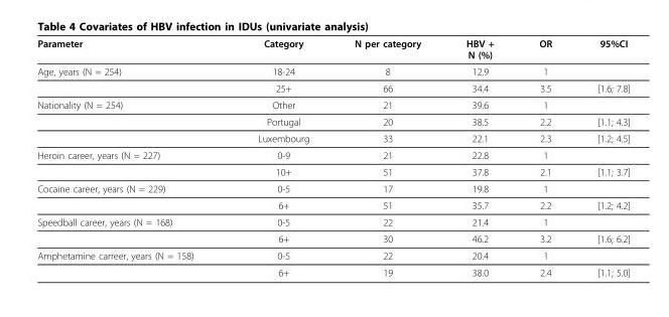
<table><thead><tr><td>Parameter</td><td>Category</td><td>N per category</td><td>HBV + N (%)</td><td>OR</td><td>95%CI</td></tr></thead><tbody><tr><td rowspan="2">Age, years (N = 254)</td><td>18-24</td><td>8</td><td>12.9</td><td>1</td><td></td></tr><tr><td>25+</td><td>66</td><td>34.4</td><td>3.5</td><td>[1.6; 7.8]</td></tr><tr><td rowspan="3">Nationality (N = 254)</td><td>Other</td><td>21</td><td>39.6</td><td>1</td><td></td></tr><tr><td>Portugal</td><td>20</td><td>38.5</td><td>2.2</td><td>[1.1; 4.3]</td></tr><tr><td>Luxembourg</td><td>33</td><td>22.1</td><td>2.3</td><td>[1.2; 4.5]</td></tr><tr><td rowspan="2">Heroin career, years (N = 227)</td><td>0-9</td><td>21</td><td>22.8</td><td>1</td><td></td></tr><tr><td>10+</td><td>51</td><td>37.8</td><td>2.1</td><td>[1.1; 3.7]</td></tr><tr><td rowspan="2">Cocaine career, years (N = 229)</td><td>0-5</td><td>17</td><td>19.8</td><td>1</td><td></td></tr><tr><td>6+</td><td>51</td><td>35.7</td><td>2.2</td><td>[1.2; 4.2]</td></tr><tr><td rowspan="2">Speedball career, years (N = 168)</td><td>0-5</td><td>22</td><td>21.4</td><td>1</td><td></td></tr><tr><td>6+</td><td>30</td><td>46.2</td><td>3.2</td><td>[1.6; 6.2]</td></tr><tr><td rowspan="2">Amphetamine carreer, years (N = 158)</td><td>0-5</td><td>22</td><td>20.4</td><td>1</td><td></td></tr><tr><td>6+</td><td>19</td><td>38.0</td><td>2.4</td><td>[1.1; 5.0]</td></tr></tbody></table>